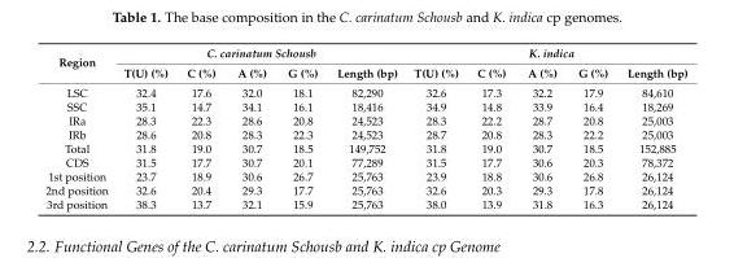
<table><thead><tr><td rowspan="2">Region</td><td colspan="5">C. carinatum Schousb</td><td colspan="5">K. indica</td></tr><tr><td>T(U) (%)</td><td>C (%)</td><td>A (%)</td><td>G (%)</td><td>Length (bp)</td><td>T(U) (%)</td><td>C (%)</td><td>A (%)</td><td>G (%)</td><td>Length (bp)</td></tr></thead><tbody><tr><td>LSC</td><td>32.4</td><td>17.6</td><td>32.0</td><td>18.1</td><td>82,290</td><td>32.6</td><td>17.3</td><td>32.2</td><td>17.9</td><td>84,610</td></tr><tr><td>SSC</td><td>35.1</td><td>14.7</td><td>34.1</td><td>16.1</td><td>18,416</td><td>34.9</td><td>14.8</td><td>33.9</td><td>16.4</td><td>18,269</td></tr><tr><td>IRa</td><td>28.3</td><td>22.3</td><td>28.6</td><td>20.8</td><td>24,523</td><td>28.3</td><td>22.2</td><td>28.7</td><td>20.8</td><td>25,003</td></tr><tr><td>IRb</td><td>28.6</td><td>20.8</td><td>28.3</td><td>22.3</td><td>24,523</td><td>28.7</td><td>20.8</td><td>28.3</td><td>22.2</td><td>25,003</td></tr><tr><td>Total</td><td>31.8</td><td>19.0</td><td>30.7</td><td>18.5</td><td>149,752</td><td>31.8</td><td>19.0</td><td>30.7</td><td>18.5</td><td>152,885</td></tr><tr><td>CDS</td><td>31.5</td><td>17.7</td><td>30.7</td><td>20.1</td><td>77,289</td><td>31.5</td><td>17.7</td><td>30.6</td><td>20.3</td><td>78,372</td></tr><tr><td>1st position</td><td>23.7</td><td>18.9</td><td>30.6</td><td>26.7</td><td>25,763</td><td>23.9</td><td>18.8</td><td>30.6</td><td>26.8</td><td>26,124</td></tr><tr><td>2nd position</td><td>32.6</td><td>20.4</td><td>29.3</td><td>17.7</td><td>25,763</td><td>32.6</td><td>20.3</td><td>29.3</td><td>17.8</td><td>26,124</td></tr><tr><td>3rd position</td><td>38.3</td><td>13.7</td><td>32.1</td><td>15.9</td><td>25,763</td><td>38.0</td><td>13.9</td><td>31.8</td><td>16.3</td><td>26,124</td></tr></tbody></table>